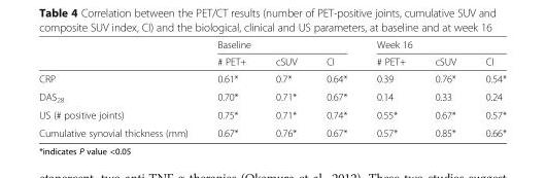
<table><thead><tr><td rowspan="2"></td><td colspan="3">Baseline</td><td colspan="3">Week 16</td></tr><tr><td># PET+</td><td>cSUV</td><td>CI</td><td># PET+</td><td>cSUV</td><td>CI</td></tr></thead><tbody><tr><td>CRP</td><td>0.61*</td><td>0.7*</td><td>0.64*</td><td>0.39</td><td>0.76*</td><td>0.54*</td></tr><tr><td>DAS<sub>28</sub></td><td>0.70*</td><td>0.71*</td><td>0.67*</td><td>0.14</td><td>0.33</td><td>0.24</td></tr><tr><td>US (# positive joints)</td><td>0.75*</td><td>0.71*</td><td>0.74*</td><td>0.55*</td><td>0.67*</td><td>0.57*</td></tr><tr><td>Cumulative synovial thickness (mm)</td><td>0.67*</td><td>0.76*</td><td>0.67*</td><td>0.57*</td><td>0.85*</td><td>0.66*</td></tr></tbody></table>